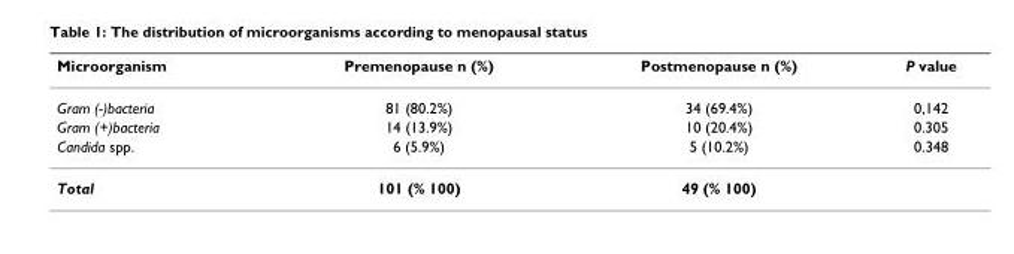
<table><thead><tr><td>Microorganism</td><td>Premenopause n (%)</td><td>Postmenopause n (%)</td><td>P value</td></tr></thead><tbody><tr><td>Gram (-)bacteria</td><td>81 (80.2%)</td><td>34 (69.4%)</td><td>0,142</td></tr><tr><td>Gram (+)bacteria</td><td>14 (13.9%)</td><td>10 (20.4%)</td><td>0.305</td></tr><tr><td>Candida spp.</td><td>6 (5.9%)</td><td>5 (10.2%)</td><td>0.348</td></tr><tr><td>Total</td><td>101 (% 100)</td><td>49 (% 100)</td><td></td></tr></tbody></table>